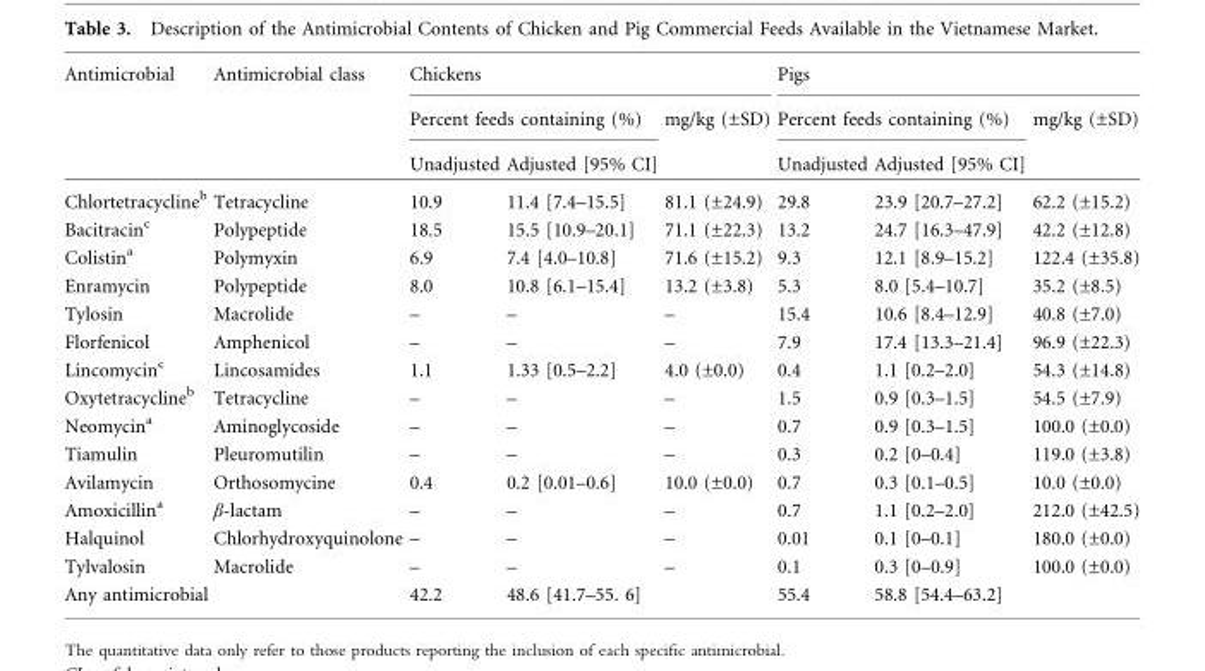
<table><thead><tr><td rowspan="3">Antimicrobial</td><td rowspan="3">Antimicrobial class</td><td colspan="3">Chickens</td><td colspan="3">Pigs</td></tr><tr><td colspan="2">Percent feeds containing (%)</td><td rowspan="2">mg/kg (±SD)</td><td colspan="2">Percent feeds containing (%)</td><td rowspan="2">mg/kg (±SD)</td></tr><tr><td>Unadjusted</td><td>Adjusted [95% CI]</td><td>Unadjusted</td><td>Adjusted [95% CI]</td></tr></thead><tbody><tr><td>Chlortetracycline<sup>b</sup></td><td>Tetracycline</td><td>10.9</td><td>11.4 [7.4–15.5]</td><td>81.1 (±24.9)</td><td>29.8</td><td>23.9 [20.7–27.2]</td><td>62.2 (±15.2)</td></tr><tr><td>Bacitracin<sup>c</sup></td><td>Polypeptide</td><td>18.5</td><td>15.5 [10.9–20.1]</td><td>71.1 (±22.3)</td><td>13.2</td><td>24.7 [16.3–47.9]</td><td>42.2 (±12.8)</td></tr><tr><td>Colistin<sup>a</sup></td><td>Polymyxin</td><td>6.9</td><td>7.4 [4.0–10.8]</td><td>71.6 (±15.2)</td><td>9.3</td><td>12.1 [8.9–15.2]</td><td>122.4 (±35.8)</td></tr><tr><td>Enramycin</td><td>Polypeptide</td><td>8.0</td><td>10.8 [6.1–15.4]</td><td>13.2 (±3.8)</td><td>5.3</td><td>8.0 [5.4–10.7]</td><td>35.2 (±8.5)</td></tr><tr><td>Tylosin</td><td>Macrolide</td><td>–</td><td>–</td><td>–</td><td>15.4</td><td>10.6 [8.4–12.9]</td><td>40.8 (±7.0)</td></tr><tr><td>Florfenicol</td><td>Amphenicol</td><td>–</td><td>–</td><td>–</td><td>7.9</td><td>17.4 [13.3–21.4]</td><td>96.9 (±22.3)</td></tr><tr><td>Lincomycin<sup>c</sup></td><td>Lincosamides</td><td>1.1</td><td>1.33 [0.5–2.2]</td><td>4.0 (±0.0)</td><td>0.4</td><td>1.1 [0.2–2.0]</td><td>54.3 (±14.8)</td></tr><tr><td>Oxytetracycline<sup>b</sup></td><td>Tetracycline</td><td>–</td><td>–</td><td>–</td><td>1.5</td><td>0.9 [0.3–1.5]</td><td>54.5 (±7.9)</td></tr><tr><td>Neomycin<sup>a</sup></td><td>Aminoglycoside</td><td>–</td><td>–</td><td>–</td><td>0.7</td><td>0.9 [0.3–1.5]</td><td>100.0 (±0.0)</td></tr><tr><td>Tiamulin</td><td>Pleuromutilin</td><td>–</td><td>–</td><td>–</td><td>0.3</td><td>0.2 [0–0.4]</td><td>119.0 (±3.8)</td></tr><tr><td>Avilamycin</td><td>Orthosomycine</td><td>0.4</td><td>0.2 [0.01–0.6]</td><td>10.0 (±0.0)</td><td>0.7</td><td>0.3 [0.1–0.5]</td><td>10.0 (±0.0)</td></tr><tr><td>Amoxicillin<sup>a</sup></td><td>β-lactam</td><td>–</td><td>–</td><td>–</td><td>0.7</td><td>1.1 [0.2–2.0]</td><td>212.0 (±42.5)</td></tr><tr><td>Halquinol</td><td>Chlorhydroxyquinolone</td><td>–</td><td>–</td><td>–</td><td>0.01</td><td>0.1 [0–0.1]</td><td>180.0 (±0.0)</td></tr><tr><td>Tylvalosin</td><td>Macrolide</td><td>–</td><td>–</td><td>–</td><td>0.1</td><td>0.3 [0–0.9]</td><td>100.0 (±0.0)</td></tr><tr><td colspan="2">Any antimicrobial</td><td>42.2</td><td>48.6 [41.7–55. 6]</td><td></td><td>55.4</td><td>58.8 [54.4–63.2]</td><td></td></tr></tbody></table>